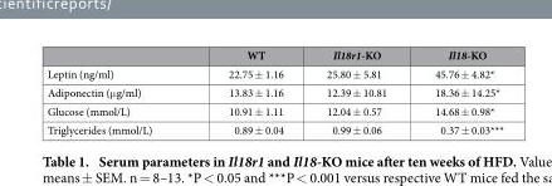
<table><thead><tr><td></td><td>WT</td><td>Il18r1-KO</td><td>Il18-KO</td></tr></thead><tbody><tr><td>Leptin (ng/ml)</td><td>22.75 ± 1.16</td><td>25.80 ± 5.81</td><td>45.76 ± 4.82*</td></tr><tr><td>Adiponectin (μ g/ml)</td><td>13.83 ± 1.16</td><td>12.39 ± 10.81</td><td>18.36 ± 14.25*</td></tr><tr><td>Glucose (mmol/L)</td><td>10.91 ± 1.11</td><td>12.04 ± 0.57</td><td>14.68 ± 0.98*</td></tr><tr><td>Triglycerides (mmol/L)</td><td>0.89 ± 0.04</td><td>0.99 ± 0.06</td><td>0.37 ± 0.03***</td></tr></tbody></table>